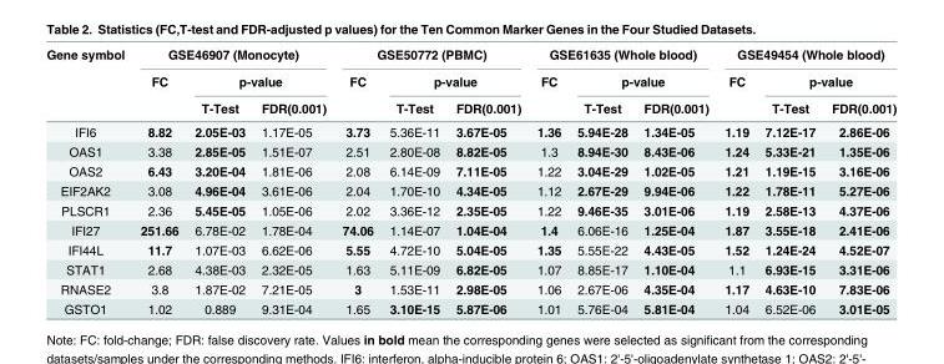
<table><thead><tr><td rowspan="3">Gene symbol</td><td colspan="3">GSE46907 (Monocyte)</td><td colspan="3">GSE50772 (PBMC)</td><td colspan="3">GSE61635 (Whole blood)</td><td colspan="3">GSE49454 (Whole blood)</td></tr><tr><td rowspan="2">FC</td><td colspan="2">p-value</td><td rowspan="2">FC</td><td colspan="2">p-value</td><td rowspan="2">FC</td><td colspan="2">p-value</td><td rowspan="2">FC</td><td colspan="2">p-value</td></tr><tr><td>T-Test</td><td>FDR(0.001)</td><td>T-Test</td><td>FDR(0.001)</td><td>T-Test</td><td>FDR(0.001)</td><td>T-Test</td><td>FDR(0.001)</td></tr></thead><tbody><tr><td>IFI6</td><td>8.82</td><td>2.05E-03</td><td>1.17E-05</td><td>3.73</td><td>5.36E-11</td><td>3.67E-05</td><td>1.36</td><td>5.94E-28</td><td>1.34E-05</td><td>1.19</td><td>7.12E-17</td><td>2.86E-06</td></tr><tr><td>OAS1</td><td>3.38</td><td>2.85E-05</td><td>1.51E-07</td><td>2.51</td><td>2.80E-08</td><td>8.82E-05</td><td>1.3</td><td>8.94E-30</td><td>8.43E-06</td><td>1.24</td><td>5.33E-21</td><td>1.35E-06</td></tr><tr><td>OAS2</td><td>6.43</td><td>3.20E-04</td><td>1.81E-06</td><td>2.08</td><td>6.14E-09</td><td>7.11E-05</td><td>1.22</td><td>3.04E-29</td><td>1.02E-05</td><td>1.21</td><td>1.19E-15</td><td>3.16E-06</td></tr><tr><td>EIF2AK2</td><td>3.08</td><td>4.96E-04</td><td>3.61E-06</td><td>2.04</td><td>1.70E-10</td><td>4.34E-05</td><td>1.12</td><td>2.67E-29</td><td>9.94E-06</td><td>1.22</td><td>1.78E-11</td><td>5.27E-06</td></tr><tr><td>PLSCR1</td><td>2.36</td><td>5.45E-05</td><td>1.05E-06</td><td>2.02</td><td>3.36E-12</td><td>2.35E-05</td><td>1.22</td><td>9.46E-35</td><td>3.01E-06</td><td>1.19</td><td>2.58E-13</td><td>4.37E-06</td></tr><tr><td>IFI27</td><td>251.66</td><td>6.78E-02</td><td>1.78E-04</td><td>74.06</td><td>1.14E-07</td><td>1.04E-04</td><td>1.4</td><td>6.06E-16</td><td>1.25E-04</td><td>1.87</td><td>3.55E-18</td><td>2.41E-06</td></tr><tr><td>IFI44L</td><td>11.7</td><td>1.07E-03</td><td>6.62E-06</td><td>5.55</td><td>4.72E-10</td><td>5.04E-05</td><td>1.35</td><td>5.55E-22</td><td>4.43E-05</td><td>1.52</td><td>1.24E-24</td><td>4.52E-07</td></tr><tr><td>STAT1</td><td>2.68</td><td>4.38E-03</td><td>2.32E-05</td><td>1.63</td><td>5.11E-09</td><td>6.82E-05</td><td>1.07</td><td>8.85E-17</td><td>1.10E-04</td><td>1.1</td><td>6.93E-15</td><td>3.31E-06</td></tr><tr><td>RNASE2</td><td>3.8</td><td>1.87E-02</td><td>7.21E-05</td><td>3</td><td>1.53E-11</td><td>2.98E-05</td><td>1.06</td><td>2.67E-06</td><td>4.35E-04</td><td>1.17</td><td>4.63E-10</td><td>7.83E-06</td></tr><tr><td>GSTO1</td><td>1.02</td><td>0.889</td><td>9.31E-04</td><td>1.65</td><td>3.10E-15</td><td>5.87E-06</td><td>1.01</td><td>5.76E-04</td><td>5.81E-04</td><td>1.04</td><td>6.52E-06</td><td>3.01E-05</td></tr></tbody></table>